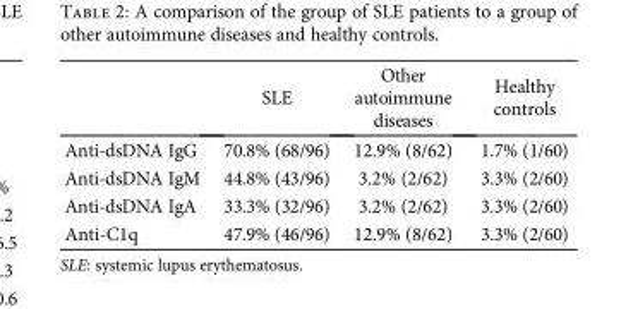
<table><thead><tr><td></td><td>SLE</td><td>Other autoimmune diseases</td><td>Healthy controls</td></tr></thead><tbody><tr><td>Anti-dsDNA IgG</td><td>70.8% (68/96)</td><td>12.9% (8/62)</td><td>1.7% (1/60)</td></tr><tr><td>Anti-dsDNA IgM</td><td>44.8% (43/96)</td><td>3.2% (2/62)</td><td>3.3% (2/60)</td></tr><tr><td>Anti-dsDNA IgA</td><td>33.3% (32/96)</td><td>3.2% (2/62)</td><td>3.3% (2/60)</td></tr><tr><td>Anti-C1q</td><td>47.9% (46/96)</td><td>12.9% (8/62)</td><td>3.3% (2/60)</td></tr></tbody></table>